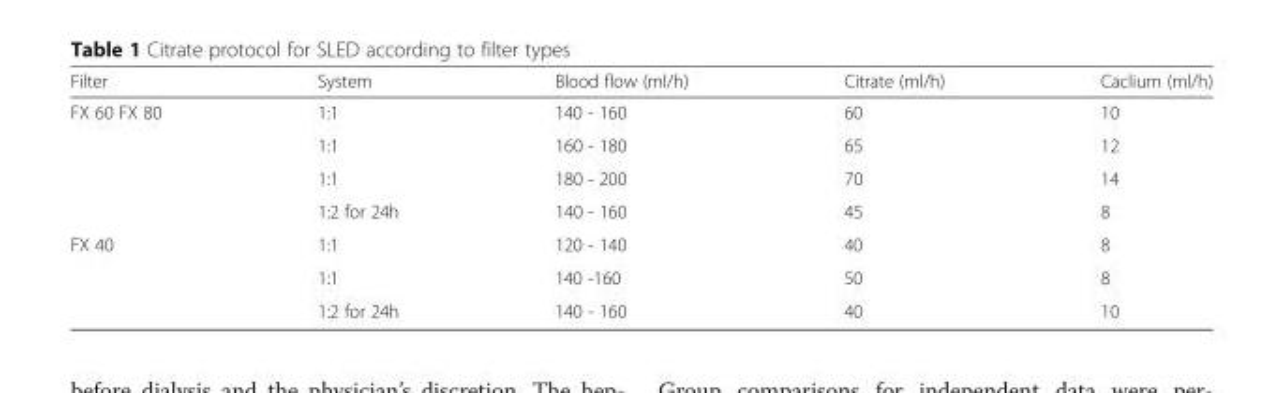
<table><thead><tr><td>Filter</td><td>System</td><td>Blood flow (ml/h)</td><td>Citrate (ml/h)</td><td>Caclium (ml/h)</td></tr></thead><tbody><tr><td rowspan="4">FX 60 FX 80</td><td>1:1</td><td>140 - 160</td><td>60</td><td>10</td></tr><tr><td>1:1</td><td>160 - 180</td><td>65</td><td>12</td></tr><tr><td>1:1</td><td>180 - 200</td><td>70</td><td>14</td></tr><tr><td>1:2 for 24h</td><td>140 - 160</td><td>45</td><td>8</td></tr><tr><td rowspan="3">FX 40</td><td>1:1</td><td>120 - 140</td><td>40</td><td>8</td></tr><tr><td>1:1</td><td>140 -160</td><td>50</td><td>8</td></tr><tr><td>1:2 for 24h</td><td>140 - 160</td><td>40</td><td>10</td></tr></tbody></table>